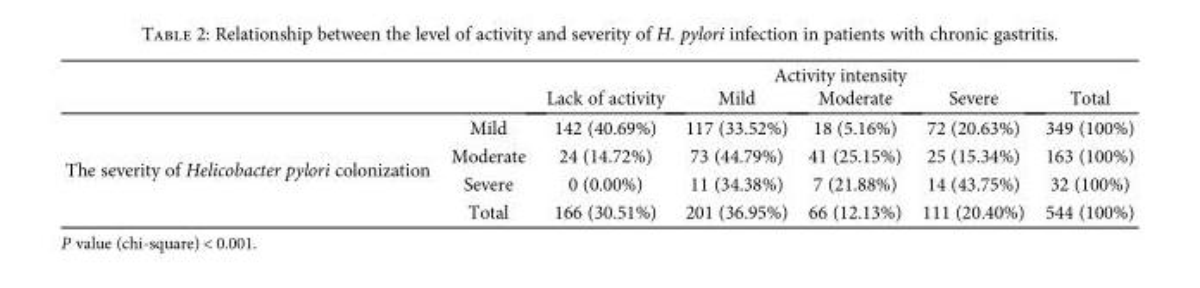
<table><thead><tr><td rowspan="2"></td><td rowspan="2"></td><td colspan="5">Activity intensity</td></tr><tr><td>Lack of activity</td><td>Mild</td><td>Moderate</td><td>Severe</td><td>Total</td></tr></thead><tbody><tr><td rowspan="4">The severity of Helicobacter pylori colonization</td><td>Mild</td><td>142 (40.69%)</td><td>117 (33.52%)</td><td>18 (5.16%)</td><td>72 (20.63%)</td><td>349 (100%)</td></tr><tr><td>Moderate</td><td>24 (14.72%)</td><td>73 (44.79%)</td><td>41 (25.15%)</td><td>25 (15.34%)</td><td>163 (100%)</td></tr><tr><td>Severe</td><td>0 (0.00%)</td><td>11 (34.38%)</td><td>7 (21.88%)</td><td>14 (43.75%)</td><td>32 (100%)</td></tr><tr><td>Total</td><td>166 (30.51%)</td><td>201 (36.95%)</td><td>66 (12.13%)</td><td>111 (20.40%)</td><td>544 (100%)</td></tr></tbody></table>